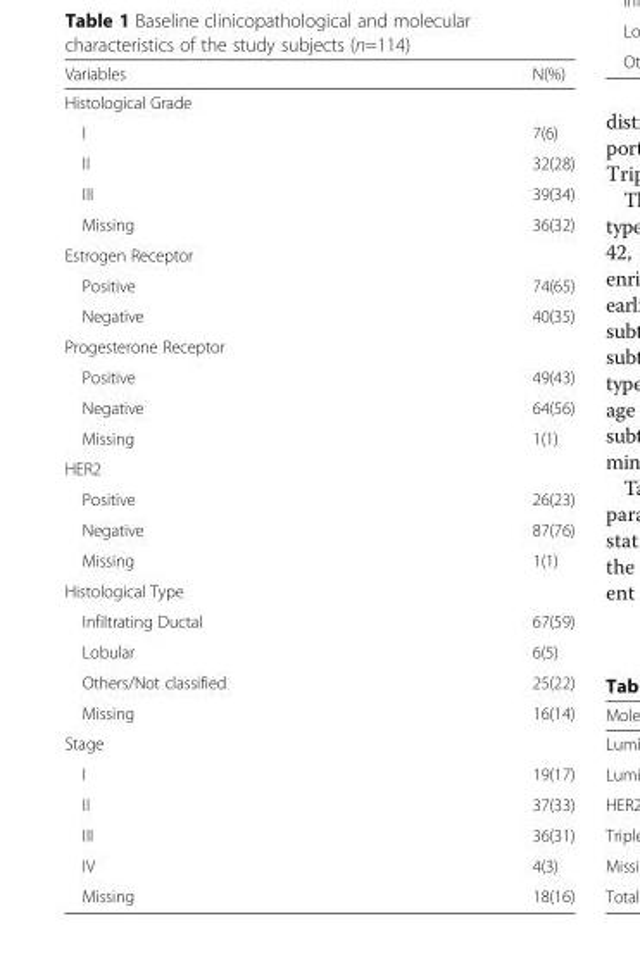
<table><thead><tr><td>Variables</td><td>N(%)</td></tr></thead><tbody><tr><td colspan="2">Histological Grade</td></tr><tr><td>I</td><td>7(6)</td></tr><tr><td>II</td><td>32(28)</td></tr><tr><td>III</td><td>39(34)</td></tr><tr><td>Missing</td><td>36(32)</td></tr><tr><td colspan="2">Estrogen Receptor</td></tr><tr><td>Positive</td><td>74(65)</td></tr><tr><td>Negative</td><td>40(35)</td></tr><tr><td colspan="2">Progesterone Receptor</td></tr><tr><td>Positive</td><td>49(43)</td></tr><tr><td>Negative</td><td>64(56)</td></tr><tr><td>Missing</td><td>1(1)</td></tr><tr><td colspan="2">HER2</td></tr><tr><td>Positive</td><td>26(23)</td></tr><tr><td>Negative</td><td>87(76)</td></tr><tr><td>Missing</td><td>1(1)</td></tr><tr><td colspan="2">Histological Type</td></tr><tr><td>Infiltrating Ductal</td><td>67(59)</td></tr><tr><td>Lobular</td><td>6(5)</td></tr><tr><td>Others/Not classified</td><td>25(22)</td></tr><tr><td>Missing</td><td>16(14)</td></tr><tr><td colspan="2">Stage</td></tr><tr><td>I</td><td>19(17)</td></tr><tr><td>II</td><td>37(33)</td></tr><tr><td>III</td><td>36(31)</td></tr><tr><td>IV</td><td>4(3)</td></tr><tr><td>Missing</td><td>18(16)</td></tr></tbody></table>